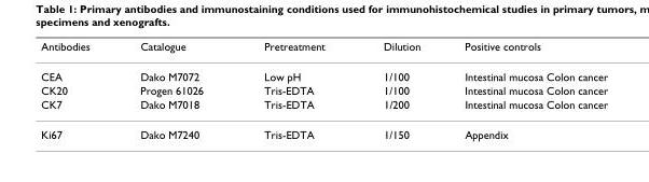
<table><thead><tr><td>Antibodies</td><td>Catalogue</td><td>Pretreatment</td><td>Dilution</td><td>Positive controls</td></tr></thead><tbody><tr><td>CEA</td><td>Dako M7072</td><td>Low pH</td><td>1/100</td><td>Intestinal mucosa Colon cancer</td></tr><tr><td>CK20</td><td>Progen 61026</td><td>Tris-EDTA</td><td>1/100</td><td>Intestinal mucosa Colon cancer</td></tr><tr><td>CK7</td><td>Dako M7018</td><td>Tris-EDTA</td><td>1/200</td><td>Intestinal mucosa Colon cancer</td></tr><tr><td>Ki67</td><td>Dako M7240</td><td>Tris-EDTA</td><td>1/150</td><td>Appendix</td></tr></tbody></table>